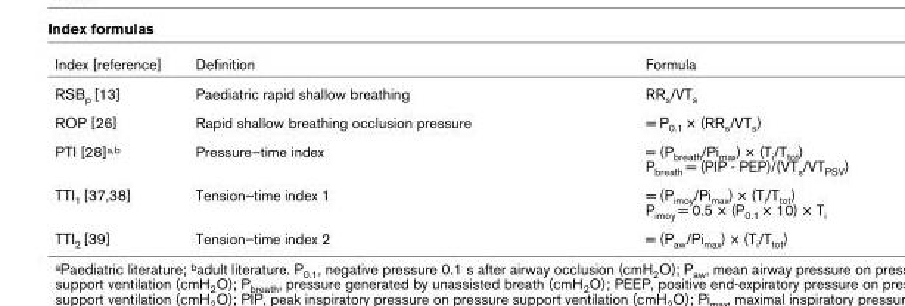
<table><thead><tr><td>Index [reference]</td><td>Definition</td><td>Formula</td></tr></thead><tbody><tr><td>RSBp [13]</td><td>Paediatric rapid shallow breathing</td><td>RRs/VTs</td></tr><tr><td>ROP [26]</td><td>Rapid shallow breathing occlusion pressure</td><td>= P0.1 × (RRs/VTs)</td></tr><tr><td>PTI [28]a,b</td><td>Pressure–time index</td><td>= (Pbreath/Pimax) × (Ti/Ttot) Pbreath = (PIP - PEP)/(VTs/VTPSV)</td></tr><tr><td>TTI1 [37,38]</td><td>Tension–time index 1</td><td>= (Pimoy/Pimax) × (Ti/Ttot) Pimoy = 0.5 × (P0.1 × 10) × Ti</td></tr><tr><td>TTI2 [39]</td><td>Tension–time index 2</td><td>= (Paw/Pimax) × (Ti/Ttot)</td></tr></tbody></table>